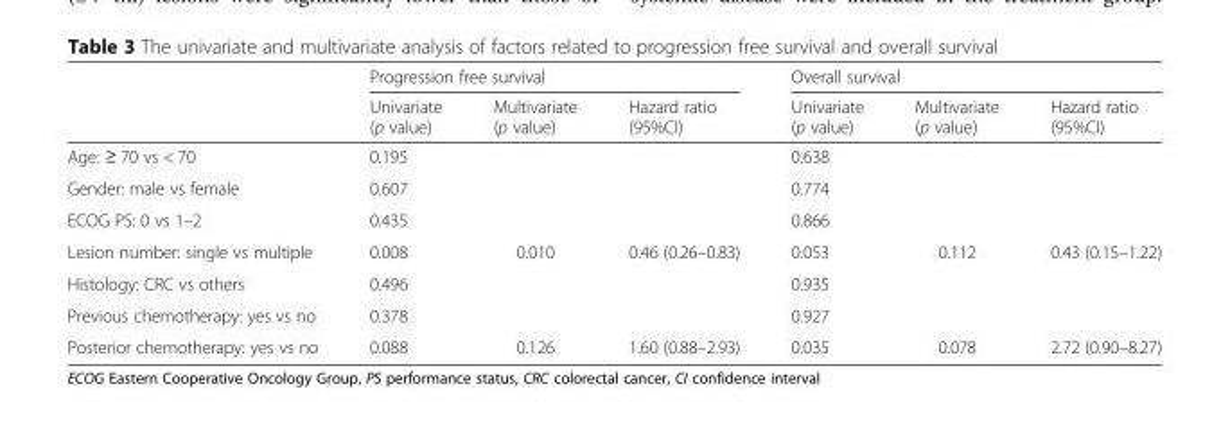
<table><thead><tr><td rowspan="2"></td><td colspan="3">Progression free survival</td><td colspan="3">Overall survival</td></tr><tr><td>Univariate (p value)</td><td>Multivariate (p value)</td><td>Hazard ratio (95%CI)</td><td>Univariate (p value)</td><td>Multivariate (p value)</td><td>Hazard ratio (95%CI)</td></tr></thead><tbody><tr><td>Age: ≥ 70 vs &lt; 70</td><td>0.195</td><td></td><td></td><td>0.638</td><td></td><td></td></tr><tr><td>Gender: male vs female</td><td>0.607</td><td></td><td></td><td>0.774</td><td></td><td></td></tr><tr><td>ECOG PS: 0 vs 1–2</td><td>0.435</td><td></td><td></td><td>0.866</td><td></td><td></td></tr><tr><td>Lesion number: single vs multiple</td><td>0.008</td><td>0.010</td><td>0.46 (0.26–0.83)</td><td>0.053</td><td>0.112</td><td>0.43 (0.15–1.22)</td></tr><tr><td>Histology: CRC vs others</td><td>0.496</td><td></td><td></td><td>0.935</td><td></td><td></td></tr><tr><td>Previous chemotherapy: yes vs no</td><td>0.378</td><td></td><td></td><td>0.927</td><td></td><td></td></tr><tr><td>Posterior chemotherapy: yes vs no</td><td>0.088</td><td>0.126</td><td>1.60 (0.88–2.93)</td><td>0.035</td><td>0.078</td><td>2.72 (0.90–8.27)</td></tr></tbody></table>